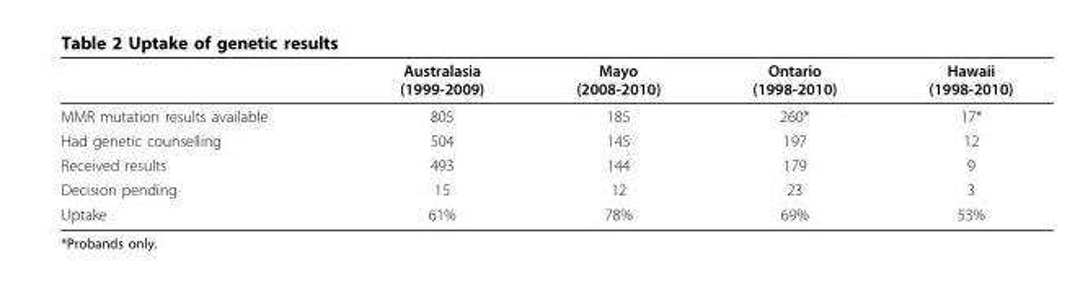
<table><thead><tr><td></td><td>Australasia (1999-2009)</td><td>Mayo (2008-2010)</td><td>Ontario (1998-2010)</td><td>Hawaii (1998-2010)</td></tr></thead><tbody><tr><td>MMR mutation results available</td><td>805</td><td>185</td><td>260*</td><td>17*</td></tr><tr><td>Had genetic counselling</td><td>504</td><td>145</td><td>197</td><td>12</td></tr><tr><td>Received results</td><td>493</td><td>144</td><td>179</td><td>9</td></tr><tr><td>Decision pending</td><td>15</td><td>12</td><td>23</td><td>3</td></tr><tr><td>Uptake</td><td>61%</td><td>78%</td><td>69%</td><td>53%</td></tr></tbody></table>